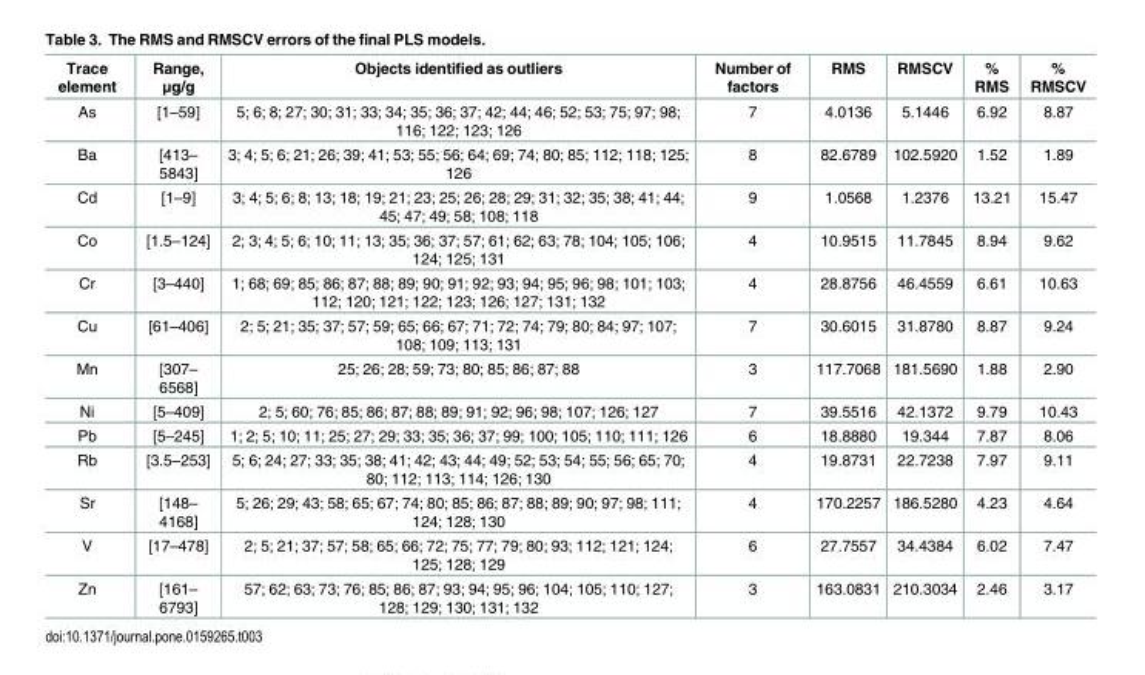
<table><thead><tr><td>Trace element</td><td>Range, μg/g</td><td>Objects identified as outliers</td><td>Number of factors</td><td>RMS</td><td>RMSCV</td><td>% RMS</td><td>% RMSCV</td></tr></thead><tbody><tr><td>As</td><td>[1–59]</td><td>5; 6; 8; 27; 30; 31; 33; 34; 35; 36; 37; 42; 44; 46; 52; 53; 75; 97; 98; 116; 122; 123; 126</td><td>7</td><td>4.0136</td><td>5.1446</td><td>6.92</td><td>8.87</td></tr><tr><td>Ba</td><td>[413– 5843]</td><td>3; 4; 5; 6; 21; 26; 39; 41; 53; 55; 56; 64; 69; 74; 80; 85; 112; 118; 125; 126</td><td>8</td><td>82.6789</td><td>102.5920</td><td>1.52</td><td>1.89</td></tr><tr><td>Cd</td><td>[1–9]</td><td>3; 4; 5; 6; 8; 13; 18; 19; 21; 23; 25; 26; 28; 29; 31; 32; 35; 38; 41; 44; 45; 47; 49; 58; 108; 118</td><td>9</td><td>1.0568</td><td>1.2376</td><td>13.21</td><td>15.47</td></tr><tr><td>Co</td><td>[1.5–124]</td><td>2; 3; 4; 5; 6; 10; 11; 13; 35; 36; 37; 57; 61; 62; 63; 78; 104; 105; 106; 124; 125; 131</td><td>4</td><td>10.9515</td><td>11.7845</td><td>8.94</td><td>9.62</td></tr><tr><td>Cr</td><td>[3–440]</td><td>1; 68; 69; 85; 86; 87; 88; 89; 90; 91; 92; 93; 94; 95; 96; 98; 101; 103; 112; 120; 121; 122; 123; 126; 127; 131; 132</td><td>4</td><td>28.8756</td><td>46.4559</td><td>6.61</td><td>10.63</td></tr><tr><td>Cu</td><td>[61–406]</td><td>2; 5; 21; 35; 37; 57; 59; 65; 66; 67; 71; 72; 74; 79; 80; 84; 97; 107; 108; 109; 113; 131</td><td>7</td><td>30.6015</td><td>31.8780</td><td>8.87</td><td>9.24</td></tr><tr><td>Mn</td><td>[307– 6568]</td><td>25; 26; 28; 59; 73; 80; 85; 86; 87; 88</td><td>3</td><td>117.7068</td><td>181.5690</td><td>1.88</td><td>2.90</td></tr><tr><td>Ni</td><td>[5–409]</td><td>2; 5; 60; 76; 85; 86; 87; 88; 89; 91; 92; 96; 98; 107; 126; 127</td><td>7</td><td>39.5516</td><td>42.1372</td><td>9.79</td><td>10.43</td></tr><tr><td>Pb</td><td>[5–245]</td><td>1; 2; 5; 10; 11; 25; 27; 29; 33; 35; 36; 37; 99; 100; 105; 110; 111; 126</td><td>6</td><td>18.8880</td><td>19.344</td><td>7.87</td><td>8.06</td></tr><tr><td>Rb</td><td>[3.5–253]</td><td>5; 6; 24; 27; 33; 35; 38; 41; 42; 43; 44; 49; 52; 53; 54; 55; 56; 65; 70; 80; 112; 113; 114; 126; 130</td><td>4</td><td>19.8731</td><td>22.7238</td><td>7.97</td><td>9.11</td></tr><tr><td>Sr</td><td>[148– 4168]</td><td>5; 26; 29; 43; 58; 65; 67; 74; 80; 85; 86; 87; 88; 89; 90; 97; 98; 111; 124; 128; 130</td><td>4</td><td>170.2257</td><td>186.5280</td><td>4.23</td><td>4.64</td></tr><tr><td>V</td><td>[17–478]</td><td>2; 5; 21; 37; 57; 58; 65; 66; 72; 75; 77; 79; 80; 93; 112; 121; 124; 125; 128; 129</td><td>6</td><td>27.7557</td><td>34.4384</td><td>6.02</td><td>7.47</td></tr><tr><td>Zn</td><td>[161– 6793]</td><td>57; 62; 63; 73; 76; 85; 86; 87; 93; 94; 95; 96; 104; 105; 110; 127; 128; 129; 130; 131; 132</td><td>3</td><td>163.0831</td><td>210.3034</td><td>2.46</td><td>3.17</td></tr></tbody></table>